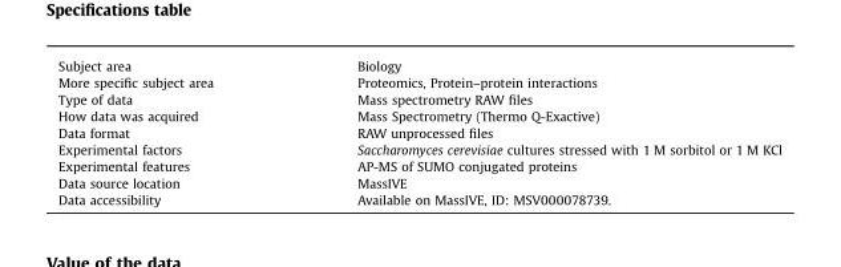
<table><thead><tr><td>Subject area</td><td>Biology</td></tr></thead><tbody><tr><td>More specific subject area</td><td>Proteomics, Protein–protein interactions</td></tr><tr><td>Type of data</td><td>Mass spectrometry RAW files</td></tr><tr><td>How data was acquired</td><td>Mass Spectrometry (Thermo Q-Exactive)</td></tr><tr><td>Data format</td><td>RAW unprocessed files</td></tr><tr><td>Experimental factors</td><td>Saccharomyces cerevisiae cultures stressed with 1 M sorbitol or 1 M KCl</td></tr><tr><td>Experimental features</td><td>AP-MS of SUMO conjugated proteins</td></tr><tr><td>Data source location</td><td>MassIVE</td></tr><tr><td>Data accessibility</td><td>Available on MassIVE, ID: MSV000078739.</td></tr></tbody></table>